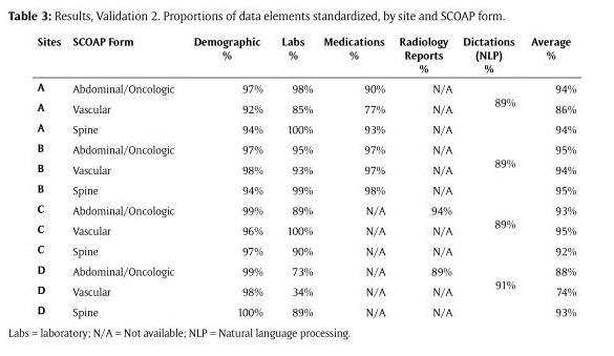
<table><thead><tr><td>Sites</td><td>SCOAP Form</td><td>Demographic %</td><td>Labs %</td><td>Medications %</td><td>Radiology Reports %</td><td>Dictations (NLP) %</td><td>Average %</td></tr></thead><tbody><tr><td>A</td><td>Abdominal/Oncologic</td><td>97%</td><td>98%</td><td>90%</td><td>N/A</td><td rowspan="3">89%</td><td>94%</td></tr><tr><td>A</td><td>Vascular</td><td>92%</td><td>85%</td><td>77%</td><td>N/A</td><td>86%</td></tr><tr><td>A</td><td>Spine</td><td>94%</td><td>100%</td><td>93%</td><td>N/A</td><td>94%</td></tr><tr><td>B</td><td>Abdominal/Oncologic</td><td>97%</td><td>95%</td><td>97%</td><td>N/A</td><td rowspan="3">89%</td><td>95%</td></tr><tr><td>B</td><td>Vascular</td><td>98%</td><td>93%</td><td>97%</td><td>N/A</td><td>94%</td></tr><tr><td>B</td><td>Spine</td><td>94%</td><td>99%</td><td>98%</td><td>N/A</td><td>95%</td></tr><tr><td>C</td><td>Abdominal/Oncologic</td><td>99%</td><td>89%</td><td>N/A</td><td>94%</td><td rowspan="3">89%</td><td>93%</td></tr><tr><td>C</td><td>Vascular</td><td>96%</td><td>100%</td><td>N/A</td><td>N/A</td><td>95%</td></tr><tr><td>C</td><td>Spine</td><td>97%</td><td>90%</td><td>N/A</td><td>N/A</td><td>92%</td></tr><tr><td>D</td><td>Abdominal/Oncologic</td><td>99%</td><td>73%</td><td>N/A</td><td>89%</td><td rowspan="3">91%</td><td>88%</td></tr><tr><td>D</td><td>Vascular</td><td>98%</td><td>34%</td><td>N/A</td><td>N/A</td><td>74%</td></tr><tr><td>D</td><td>Spine</td><td>100%</td><td>89%</td><td>N/A</td><td>N/A</td><td>93%</td></tr></tbody></table>